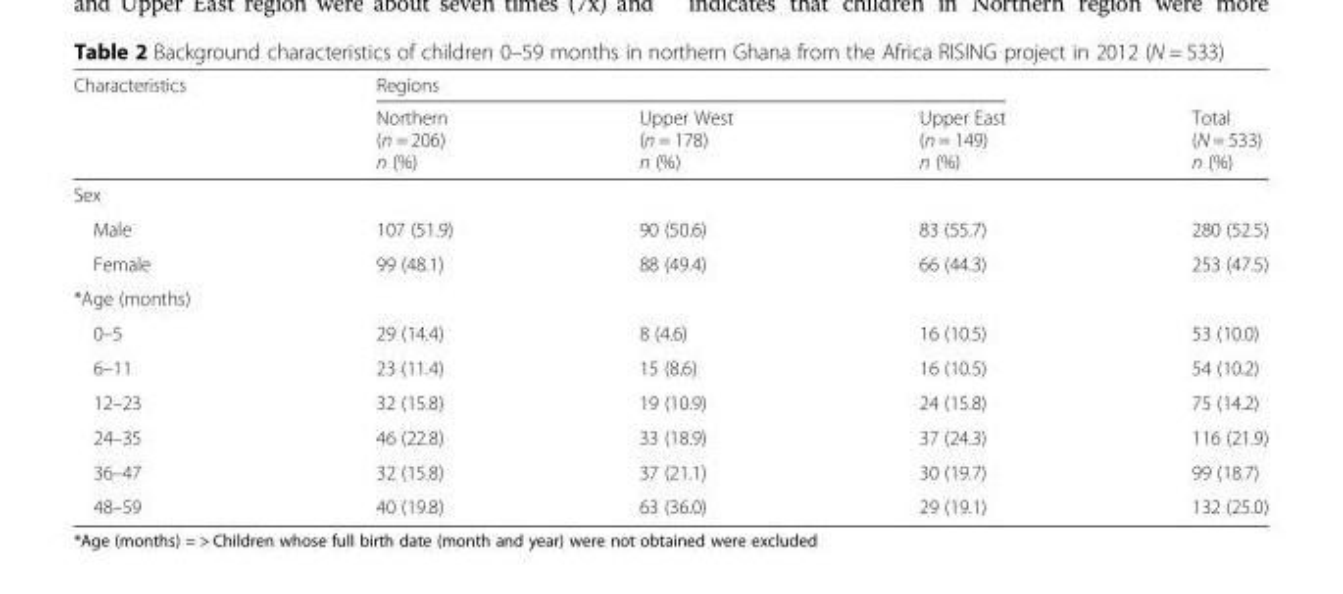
<table><thead><tr><td rowspan="2">Characteristics</td><td colspan="3">Regions</td><td rowspan="2">Total (N = 533) n (%)</td></tr><tr><td>Northern (n = 206) n (%)</td><td>Upper West (n = 178) n (%)</td><td>Upper East (n = 149) n (%)</td></tr></thead><tbody><tr><td colspan="5">Sex</td></tr><tr><td>Male</td><td>107 (51.9)</td><td>90 (50.6)</td><td>83 (55.7)</td><td>280 (52.5)</td></tr><tr><td>Female</td><td>99 (48.1)</td><td>88 (49.4)</td><td>66 (44.3)</td><td>253 (47.5)</td></tr><tr><td colspan="5">*Age (months)</td></tr><tr><td>0–5</td><td>29 (14.4)</td><td>8 (4.6)</td><td>16 (10.5)</td><td>53 (10.0)</td></tr><tr><td>6–11</td><td>23 (11.4)</td><td>15 (8.6)</td><td>16 (10.5)</td><td>54 (10.2)</td></tr><tr><td>12–23</td><td>32 (15.8)</td><td>19 (10.9)</td><td>24 (15.8)</td><td>75 (14.2)</td></tr><tr><td>24–35</td><td>46 (22.8)</td><td>33 (18.9)</td><td>37 (24.3)</td><td>116 (21.9)</td></tr><tr><td>36–47</td><td>32 (15.8)</td><td>37 (21.1)</td><td>30 (19.7)</td><td>99 (18.7)</td></tr><tr><td>48–59</td><td>40 (19.8)</td><td>63 (36.0)</td><td>29 (19.1)</td><td>132 (25.0)</td></tr></tbody></table>